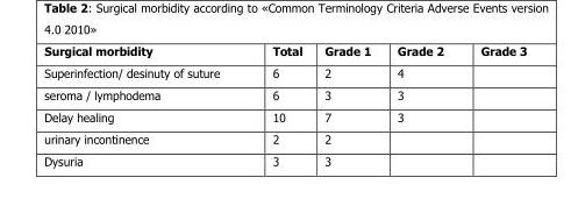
<table><thead><tr><td>Surgical morbidity</td><td>Total</td><td>Grade 1</td><td>Grade 2</td><td>Grade 3</td></tr></thead><tbody><tr><td>Superinfection/ desinuty of suture</td><td>6</td><td>2</td><td>4</td><td></td></tr><tr><td>seroma / lymphodema</td><td>6</td><td>3</td><td>3</td><td></td></tr><tr><td>Delay healing</td><td>10</td><td>7</td><td>3</td><td></td></tr><tr><td>urinary incontinence</td><td>2</td><td>2</td><td></td><td></td></tr><tr><td>Dysuria</td><td>3</td><td>3</td><td></td><td></td></tr></tbody></table>